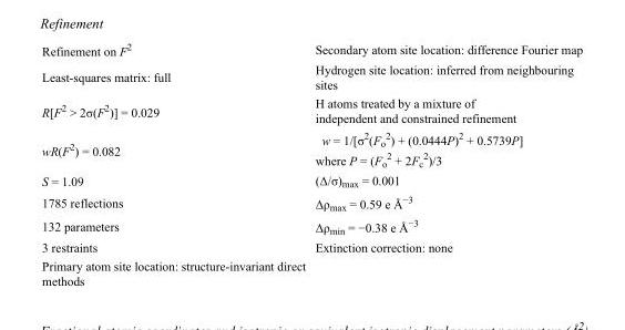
<table><tbody><tr><td>Refinement on F<sup>2</sup></td><td>Secondary atom site location: difference Fourier map</td></tr><tr><td>Least-squares matrix: full</td><td>Hydrogen site location: inferred from neighbouring sites</td></tr><tr><td>R[F<sup>2</sup> &gt; 2σ(F<sup>2</sup>)] = 0.029</td><td>H atoms treated by a mixture of independent and constrained refinement</td></tr><tr><td>wR(F<sup>2</sup>) = 0.082</td><td>w = 1/[σ<sup>2</sup>(F<sub>o</sub> <sup>2</sup>) + (0.0444P)<sup>2</sup> + 0.5739P] where P = (F<sub>o</sub> <sup>2</sup> + 2F<sub>c</sub> <sup>2</sup>)/3</td></tr><tr><td>S = 1.09</td><td>(Δ/σ)<sub>max</sub> = 0.001</td></tr><tr><td>1785 reflections</td><td>Δρ<sub>max</sub> = 0.59 e Å<sup>−3</sup></td></tr><tr><td>132 parameters</td><td>Δρ<sub>min</sub> = −0.38 e Å<sup>−3</sup></td></tr><tr><td>3 restraints</td><td>Extinction correction: none</td></tr><tr><td>Primary atom site location: structure-invariant direct methods</td><td></td></tr></tbody></table>